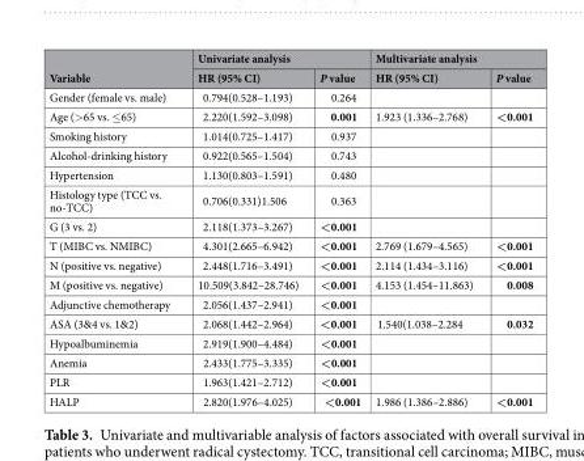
<table><thead><tr><td rowspan="2">Variable</td><td colspan="2">Univariate analysis</td><td colspan="2">Multivariate analysis</td></tr><tr><td>HR (95% CI)</td><td>P value</td><td>HR (95% CI)</td><td>P value</td></tr></thead><tbody><tr><td>Gender (female vs. male)</td><td>0.794(0.528–1.193)</td><td>0.264</td><td></td><td></td></tr><tr><td>Age (&gt;65 vs. ≤65)</td><td>2.220(1.592–3.098)</td><td>0.001</td><td>1.923 (1.336–2.768)</td><td>&lt;0.001</td></tr><tr><td>Smoking history</td><td>1.014(0.725–1.417)</td><td>0.937</td><td></td><td></td></tr><tr><td>Alcohol-drinking history</td><td>0.922(0.565–1.504)</td><td>0.743</td><td></td><td></td></tr><tr><td>Hypertension</td><td>1.130(0.803–1.591)</td><td>0.480</td><td></td><td></td></tr><tr><td>Histology type (TCC vs. no-TCC)</td><td>0.706(0.331)1.506</td><td>0.363</td><td></td><td></td></tr><tr><td>G (3 vs. 2)</td><td>2.118(1.373–3.267)</td><td>&lt;0.001</td><td></td><td></td></tr><tr><td>T (MIBC vs. NMIBC)</td><td>4.301(2.665–6.942)</td><td>&lt;0.001</td><td>2.769 (1.679–4.565)</td><td>&lt;0.001</td></tr><tr><td>N (positive vs. negative)</td><td>2.448(1.716–3.491)</td><td>&lt;0.001</td><td>2.114 (1.434–3.116)</td><td>&lt;0.001</td></tr><tr><td>M (positive vs. negative)</td><td>10.509(3.842–28.746)</td><td>&lt;0.001</td><td>4.153 (1.454–11.863)</td><td>0.008</td></tr><tr><td>Adjunctive chemotherapy</td><td>2.056(1.437–2.941)</td><td>&lt;0.001</td><td></td><td></td></tr><tr><td>ASA (3&amp;4 vs. 1&amp;2)</td><td>2.068(1.442–2.964)</td><td>&lt;0.001</td><td>1.540(1.038–2.284</td><td>0.032</td></tr><tr><td>Hypoalbuminemia</td><td>2.919(1.900–4.484)</td><td>&lt;0.001</td><td></td><td></td></tr><tr><td>Anemia</td><td>2.433(1.775–3.335)</td><td>&lt;0.001</td><td></td><td></td></tr><tr><td>PLR</td><td>1.963(1.421–2.712)</td><td>&lt;0.001</td><td></td><td></td></tr><tr><td>HALP</td><td>2.820(1.976–4.025)</td><td>&lt;0.001</td><td>1.986 (1.386–2.886)</td><td>&lt;0.001</td></tr></tbody></table>